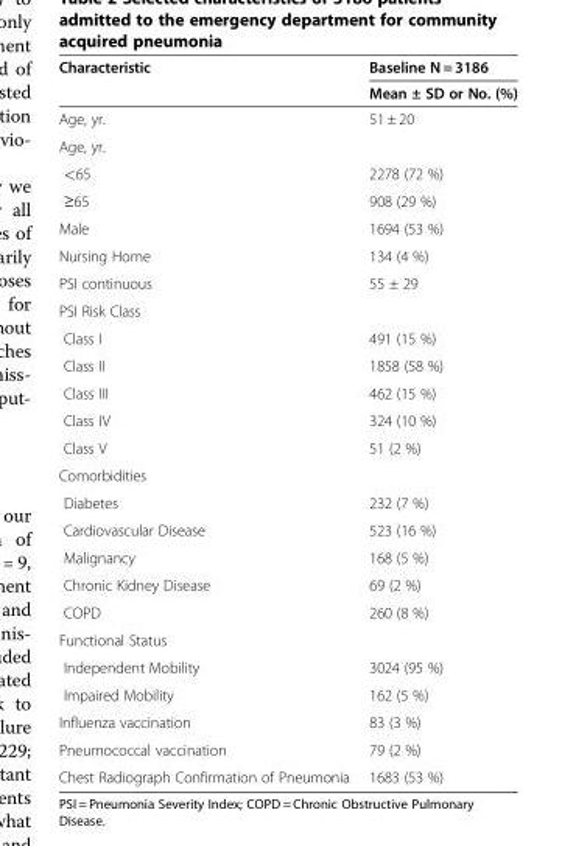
<table><thead><tr><td rowspan="2">Characteristic</td><td rowspan="2">Baseline N = 3186 Mean ± SD or No. (%)</td></tr><tr></tr></thead><tbody><tr><td>Age, yr.</td><td>51 ± 20</td></tr><tr><td colspan="2">Age, yr.</td></tr><tr><td>&lt;65</td><td>2278 (72 %)</td></tr><tr><td>≥65</td><td>908 (29 %)</td></tr><tr><td>Male</td><td>1694 (53 %)</td></tr><tr><td>Nursing Home</td><td>134 (4 %)</td></tr><tr><td>PSI continuous</td><td>55 ± 29</td></tr><tr><td colspan="2">PSI Risk Class</td></tr><tr><td>Class I</td><td>491 (15 %)</td></tr><tr><td>Class II</td><td>1858 (58 %)</td></tr><tr><td>Class III</td><td>462 (15 %)</td></tr><tr><td>Class IV</td><td>324 (10 %)</td></tr><tr><td>Class V</td><td>51 (2 %)</td></tr><tr><td colspan="2">Comorbidities</td></tr><tr><td>Diabetes</td><td>232 (7 %)</td></tr><tr><td>Cardiovascular Disease</td><td>523 (16 %)</td></tr><tr><td>Malignancy</td><td>168 (5 %)</td></tr><tr><td>Chronic Kidney Disease</td><td>69 (2 %)</td></tr><tr><td>COPD</td><td>260 (8 %)</td></tr><tr><td colspan="2">Functional Status</td></tr><tr><td>Independent Mobility</td><td>3024 (95 %)</td></tr><tr><td>Impaired Mobility</td><td>162 (5 %)</td></tr><tr><td>Influenza vaccination</td><td>83 (3 %)</td></tr><tr><td>Pneumococcal vaccination</td><td>79 (2 %)</td></tr><tr><td>Chest Radiograph Confirmation of Pneumonia</td><td>1683 (53 %)</td></tr></tbody></table>